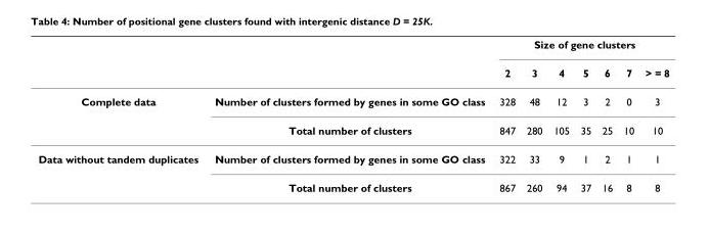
<table><thead><tr><td rowspan="2"></td><td rowspan="2"></td><td colspan="7">Size of gene clusters</td></tr><tr><td>2</td><td>3</td><td>4</td><td>5</td><td>6</td><td>7</td><td>&gt; = 8</td></tr></thead><tbody><tr><td rowspan="2">Complete data</td><td>Number of clusters formed by genes in some GO class</td><td>328</td><td>48</td><td>12</td><td>3</td><td>2</td><td>0</td><td>3</td></tr><tr><td>Total number of clusters</td><td>847</td><td>280</td><td>105</td><td>35</td><td>25</td><td>10</td><td>10</td></tr><tr><td rowspan="2">Data without tandem duplicates</td><td>Number of clusters formed by genes in some GO class</td><td>322</td><td>33</td><td>9</td><td>1</td><td>2</td><td>1</td><td>1</td></tr><tr><td>Total number of clusters</td><td>867</td><td>260</td><td>94</td><td>37</td><td>16</td><td>8</td><td>8</td></tr></tbody></table>